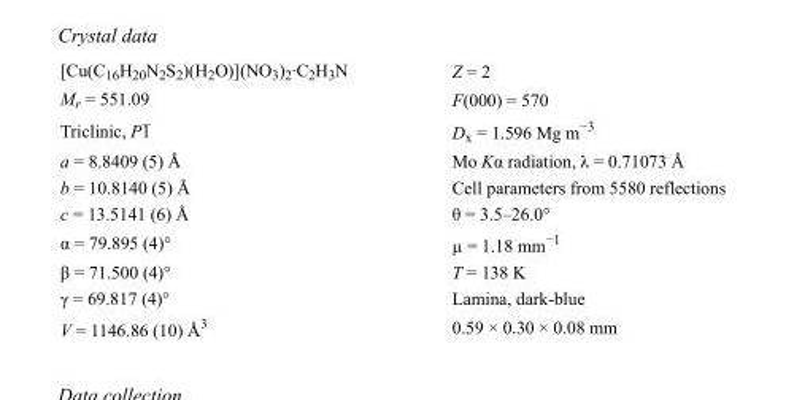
<table><tbody><tr><td>[Cu(C<sub>16</sub>H<sub>20</sub>N<sub>2</sub>S<sub>2</sub>)(H<sub>2</sub>O)](NO<sub>3</sub>)<sub>2</sub>·C<sub>2</sub>H<sub>3</sub>N</td><td>Z = 2</td></tr><tr><td>M<sub>r</sub> = 551.09</td><td>F(000) = 570</td></tr><tr><td>Triclinic, P1</td><td>D<sub>x</sub> = 1.596 Mg m<sup>−3</sup></td></tr><tr><td>a = 8.8409 (5) Å</td><td>Mo Kα radiation, λ = 0.71073 Å</td></tr><tr><td>b = 10.8140 (5) Å</td><td>Cell parameters from 5580 reflections</td></tr><tr><td>c = 13.5141 (6) Å</td><td>θ = 3.5–26.0°</td></tr><tr><td>α = 79.895 (4)°</td><td>µ = 1.18 mm<sup>−1</sup></td></tr><tr><td>β = 71.500 (4)°</td><td>T = 138 K</td></tr><tr><td>γ = 69.817 (4)°</td><td>Lamina, dark-blue</td></tr><tr><td>V = 1146.86 (10) Å<sup>3</sup></td><td>0.59 × 0.30 × 0.08 mm</td></tr></tbody></table>